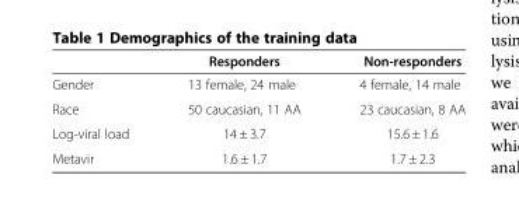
<table><thead><tr><td></td><td>Responders</td><td>Non-responders</td></tr></thead><tbody><tr><td>Gender</td><td>13 female, 24 male</td><td>4 female, 14 male</td></tr><tr><td>Race</td><td>50 caucasian, 11 AA</td><td>23 caucasian, 8 AA</td></tr><tr><td>Log-viral load</td><td>14 ± 3.7</td><td>15.6 ± 1.6</td></tr><tr><td>Metavir</td><td>1.6 ± 1.7</td><td>1.7 ± 2.3</td></tr></tbody></table>